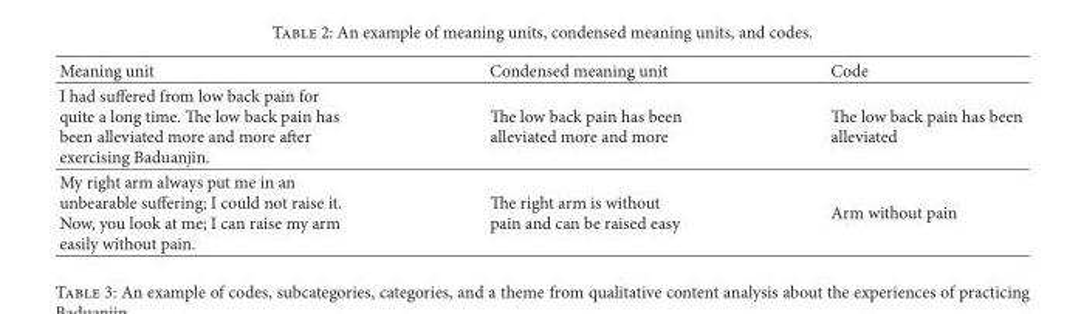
<table><thead><tr><td>Meaning unit</td><td>Condensed meaning unit</td><td>Code</td></tr></thead><tbody><tr><td>I had suffered from low back pain for quite a long time. The low back pain has been alleviated more and more after exercising Baduanjin.</td><td>The low back pain has been alleviated more and more</td><td>The low back pain has been alleviated</td></tr><tr><td>My right arm always put me in an unbearable suffering; I could not raise it. Now, you look at me; I can raise my arm easily without pain.</td><td>The right arm is without pain and can be raised easy</td><td>Arm without pain</td></tr></tbody></table>